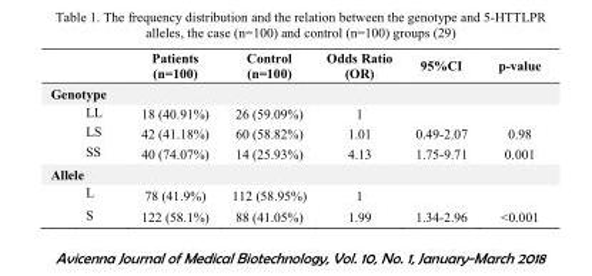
<table><thead><tr><td colspan="2">Patients (n=100)</td><td rowspan="2">Control (n=100)</td><td rowspan="2">Odds Ratio (OR)</td><td rowspan="2">95%CI</td><td rowspan="2">p-value</td></tr><tr><td>Genotype</td><td></td></tr></thead><tbody><tr><td>LL</td><td>18 (40.91%)</td><td>26 (59.09%)</td><td>1</td><td></td><td></td></tr><tr><td>LS</td><td>42 (41.18%)</td><td>60 (58.82%)</td><td>1.01</td><td>0.49-2.07</td><td>0.98</td></tr><tr><td>SS</td><td>40 (74.07%)</td><td>14 (25.93%)</td><td>4.13</td><td>1.75-9.71</td><td>0.001</td></tr><tr><td colspan="6">Allele</td></tr><tr><td>L</td><td>78 (41.9%)</td><td>112 (58.95%)</td><td>1</td><td></td><td></td></tr><tr><td>S</td><td>122 (58.1%)</td><td>88 (41.05%)</td><td>1.99</td><td>1.34-2.96</td><td>&lt;0.001</td></tr></tbody></table>